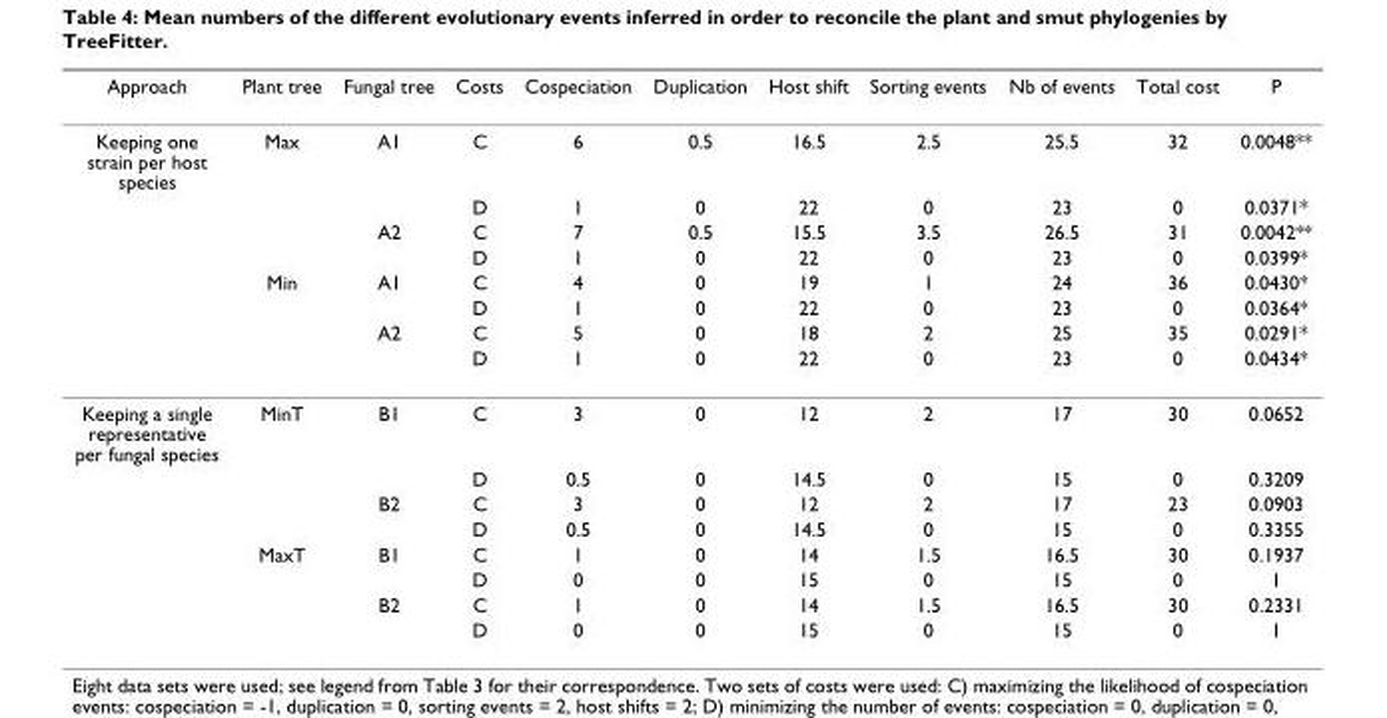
<table><thead><tr><td>Approach</td><td>Plant tree</td><td>Fungal tree</td><td>Costs</td><td>Cospeciation</td><td>Duplication</td><td>Host shift</td><td>Sorting events</td><td>Nb of events</td><td>Total cost</td><td>P</td></tr></thead><tbody><tr><td rowspan="8">Keeping one strain per host species</td><td>Max</td><td>A1</td><td>C</td><td>6</td><td>0.5</td><td>16.5</td><td>2.5</td><td>25.5</td><td>32</td><td>0.0048**</td></tr><tr><td></td><td></td><td>D</td><td>1</td><td>0</td><td>22</td><td>0</td><td>23</td><td>0</td><td>0.0371*</td></tr><tr><td></td><td>A2</td><td>C</td><td>7</td><td>0.5</td><td>15.5</td><td>3.5</td><td>26.5</td><td>31</td><td>0.0042**</td></tr><tr><td></td><td></td><td>D</td><td>1</td><td>0</td><td>22</td><td>0</td><td>23</td><td>0</td><td>0.0399*</td></tr><tr><td>Min</td><td>A1</td><td>C</td><td>4</td><td>0</td><td>19</td><td>1</td><td>24</td><td>36</td><td>0.0430*</td></tr><tr><td></td><td></td><td>D</td><td>1</td><td>0</td><td>22</td><td>0</td><td>23</td><td>0</td><td>0.0364*</td></tr><tr><td></td><td>A2</td><td>C</td><td>5</td><td>0</td><td>18</td><td>2</td><td>25</td><td>35</td><td>0.0291*</td></tr><tr><td></td><td></td><td>D</td><td>1</td><td>0</td><td>22</td><td>0</td><td>23</td><td>0</td><td>0.0434*</td></tr><tr><td rowspan="8">Keeping a single representative per fungal species</td><td>MinT</td><td>B1</td><td>C</td><td>3</td><td>0</td><td>12</td><td>2</td><td>17</td><td>30</td><td>0.0652</td></tr><tr><td></td><td></td><td>D</td><td>0.5</td><td>0</td><td>14.5</td><td>0</td><td>15</td><td>0</td><td>0.3209</td></tr><tr><td></td><td>B2</td><td>C</td><td>3</td><td>0</td><td>12</td><td>2</td><td>17</td><td>23</td><td>0.0903</td></tr><tr><td></td><td></td><td>D</td><td>0.5</td><td>0</td><td>14.5</td><td>0</td><td>15</td><td>0</td><td>0.3355</td></tr><tr><td>MaxT</td><td>B1</td><td>C</td><td>1</td><td>0</td><td>14</td><td>1.5</td><td>16.5</td><td>30</td><td>0.1937</td></tr><tr><td></td><td></td><td>D</td><td>0</td><td>0</td><td>15</td><td>0</td><td>15</td><td>0</td><td>1</td></tr><tr><td></td><td>B2</td><td>C</td><td>1</td><td>0</td><td>14</td><td>1.5</td><td>16.5</td><td>30</td><td>0.2331</td></tr><tr><td></td><td></td><td>D</td><td>0</td><td>0</td><td>15</td><td>0</td><td>15</td><td>0</td><td>1</td></tr></tbody></table>